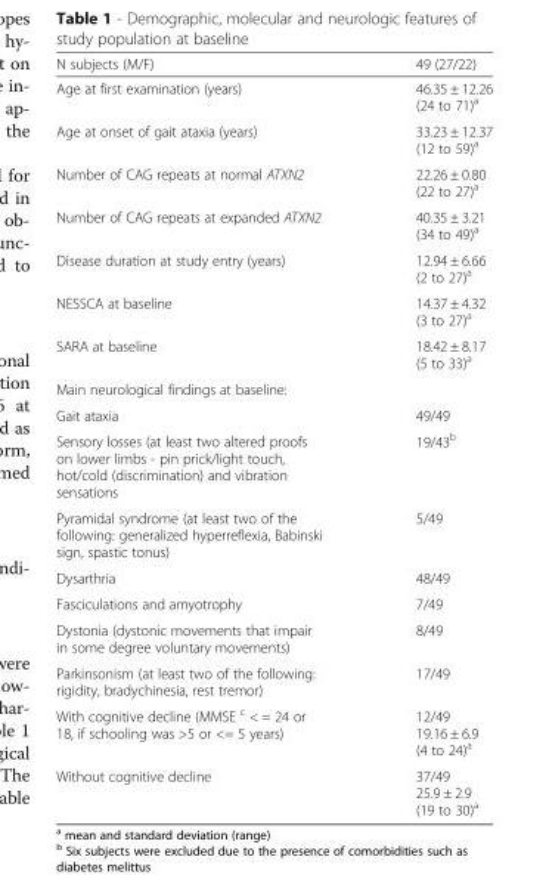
<table><thead><tr><td>N subjects (M/F)</td><td>49 (27/22)</td></tr></thead><tbody><tr><td>Age at first examination (years)</td><td>46.35 ± 12.26 (24 to 71)<sup>a</sup></td></tr><tr><td>Age at onset of gait ataxia (years)</td><td>33.23 ± 12.37 (12 to 59)<sup>a</sup></td></tr><tr><td>Number of CAG repeats at normal ATXN2</td><td>22.26 ± 0.80 (22 to 27)<sup>a</sup></td></tr><tr><td>Number of CAG repeats at expanded ATXN2</td><td>40.35 ± 3.21 (34 to 49)<sup>a</sup></td></tr><tr><td>Disease duration at study entry (years)</td><td>12.94 ± 6.66 (2 to 27)<sup>a</sup></td></tr><tr><td>NESSCA at baseline</td><td>14.37 ± 4.32 (3 to 27)<sup>a</sup></td></tr><tr><td>SARA at baseline</td><td>18.42 ± 8.17 (5 to 33)<sup>a</sup></td></tr><tr><td colspan="2">Main neurological findings at baseline:</td></tr><tr><td>Gait ataxia</td><td>49/49</td></tr><tr><td>Sensory losses (at least two altered proofs on lower limbs - pin prick/light touch, hot/cold (discrimination) and vibration sensations</td><td>19/43<sup>b</sup></td></tr><tr><td>Pyramidal syndrome (at least two of the following: generalized hyperreflexia, Babinski sign, spastic tonus)</td><td>5/49</td></tr><tr><td>Dysarthria</td><td>48/49</td></tr><tr><td>Fasciculations and amyotrophy</td><td>7/49</td></tr><tr><td>Dystonia (dystonic movements that impair in some degree voluntary movements)</td><td>8/49</td></tr><tr><td>Parkinsonism (at least two of the following: rigidity, bradychinesia, rest tremor)</td><td>17/49</td></tr><tr><td>With cognitive decline (MMSE <sup>c</sup> &lt; = 24 or 18, if schooling was &gt;5 or &lt;= 5 years)</td><td>12/49 19.16 ± 6.9 (4 to 24)<sup>a</sup></td></tr><tr><td>Without cognitive decline</td><td>37/49 25.9 ± 2.9 (19 to 30)<sup>a</sup></td></tr></tbody></table>